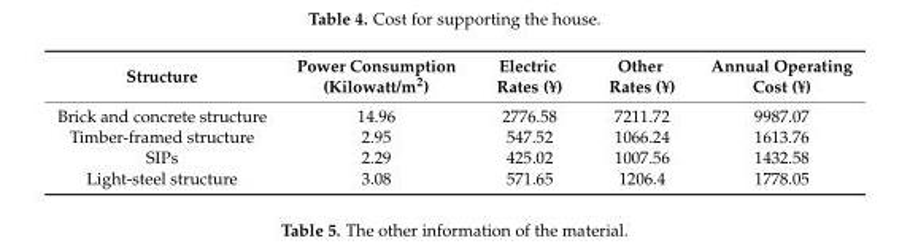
<table><thead><tr><td>Structure</td><td>Power Consumption (Kilowatt/m<sup>2</sup>)</td><td>Electric Rates (¥)</td><td>Other Rates (¥)</td><td>Annual Operating Cost (¥)</td></tr></thead><tbody><tr><td>Brick and concrete structure</td><td>14.96</td><td>2776.58</td><td>7211.72</td><td>9987.07</td></tr><tr><td>Timber-framed structure</td><td>2.95</td><td>547.52</td><td>1066.24</td><td>1613.76</td></tr><tr><td>SIPs</td><td>2.29</td><td>425.02</td><td>1007.56</td><td>1432.58</td></tr><tr><td>Light-steel structure</td><td>3.08</td><td>571.65</td><td>1206.4</td><td>1778.05</td></tr></tbody></table>